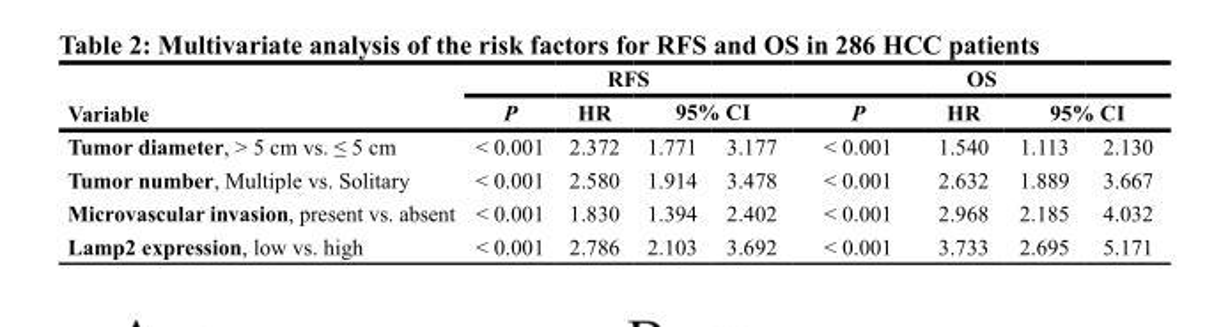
<table><thead><tr><td rowspan="3">Variable Tumor diameter, &gt; 5 cm vs. ≤ 5 cm</td><td colspan="4">RFS</td><td colspan="4">OS</td></tr><tr><td rowspan="2">P &lt; 0.001</td><td rowspan="2">HR 2.372</td><td colspan="2">95% CI</td><td rowspan="2">P &lt; 0.001</td><td rowspan="2">HR 1.540</td><td colspan="2">95% CI</td></tr><tr><td>1.771</td><td>3.177</td><td>1.113</td><td>2.130</td></tr></thead><tbody><tr><td>Tumor number, Multiple vs. Solitary</td><td>&lt; 0.001</td><td>2.580</td><td>1.914</td><td>3.478</td><td>&lt; 0.001</td><td>2.632</td><td>1.889</td><td>3.667</td></tr><tr><td>Microvascular invasion, present vs. absent</td><td>&lt; 0.001</td><td>1.830</td><td>1.394</td><td>2.402</td><td>&lt; 0.001</td><td>2.968</td><td>2.185</td><td>4.032</td></tr><tr><td>Lamp2 expression, low vs. high</td><td>&lt; 0.001</td><td>2.786</td><td>2.103</td><td>3.692</td><td>&lt; 0.001</td><td>3.733</td><td>2.695</td><td>5.171</td></tr></tbody></table>